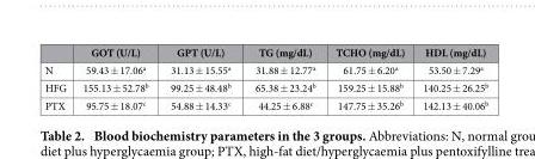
<table><thead><tr><td></td><td>GOT (U/L)</td><td>GPT (U/L)</td><td>TG (mg/dL)</td><td>TCHO (mg/dL)</td><td>HDL (mg/dL)</td></tr></thead><tbody><tr><td>N</td><td>59.43 ± 17.06<sup>a</sup></td><td>31.13 ± 15.55<sup>a</sup></td><td>31.88 ± 12.77<sup>a</sup></td><td>61.75 ± 6.20<sup>a</sup></td><td>53.50 ± 7.29<sup>a</sup></td></tr><tr><td>HFG</td><td>155.13 ± 52.78<sup>b</sup></td><td>99.25 ± 48.48<sup>b</sup></td><td>65.38 ± 23.24<sup>b</sup></td><td>159.25 ± 15.88<sup>b</sup></td><td>140.25 ± 26.25<sup>b</sup></td></tr><tr><td>PTX</td><td>95.75 ± 18.07<sup>c</sup></td><td>54.88 ± 14.33<sup>c</sup></td><td>44.25 ± 6.88<sup>c</sup></td><td>147.75 ± 35.26<sup>b</sup></td><td>142.13 ± 40.06<sup>b</sup></td></tr></tbody></table>